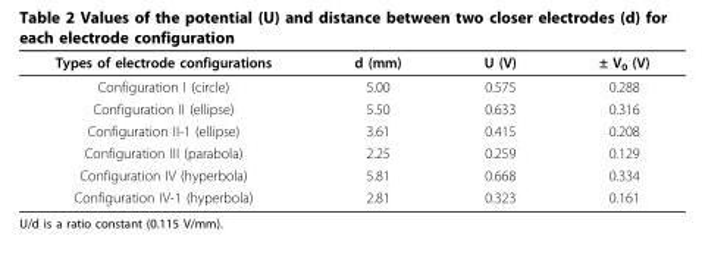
<table><thead><tr><td>Types of electrode configurations</td><td>d (mm)</td><td>U (V)</td><td>± V<sub>0</sub> (V)</td></tr></thead><tbody><tr><td>Configuration I (circle)</td><td>5.00</td><td>0.575</td><td>0.288</td></tr><tr><td>Configuration II (ellipse)</td><td>5.50</td><td>0.633</td><td>0.316</td></tr><tr><td>Configuration II-1 (ellipse)</td><td>3.61</td><td>0.415</td><td>0.208</td></tr><tr><td>Configuration III (parabola)</td><td>2.25</td><td>0.259</td><td>0.129</td></tr><tr><td>Configuration IV (hyperbola)</td><td>5.81</td><td>0.668</td><td>0.334</td></tr><tr><td>Configuration IV-1 (hyperbola)</td><td>2.81</td><td>0.323</td><td>0.161</td></tr></tbody></table>